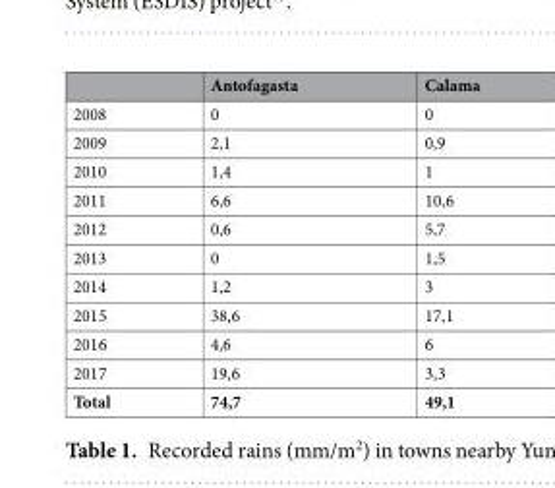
<table><thead><tr><td></td><td>Antofagasta</td><td>Calama</td></tr></thead><tbody><tr><td>2008</td><td>0</td><td>0</td></tr><tr><td>2009</td><td>2,1</td><td>0,9</td></tr><tr><td>2010</td><td>1,4</td><td>1</td></tr><tr><td>2011</td><td>6,6</td><td>10,6</td></tr><tr><td>2012</td><td>0,6</td><td>5,7</td></tr><tr><td>2013</td><td>0</td><td>1,5</td></tr><tr><td>2014</td><td>1,2</td><td>3</td></tr><tr><td>2015</td><td>38,6</td><td>17,1</td></tr><tr><td>2016</td><td>4,6</td><td>6</td></tr><tr><td>2017</td><td>19,6</td><td>3,3</td></tr><tr><td>Total</td><td>74,7</td><td>49,1</td></tr></tbody></table>